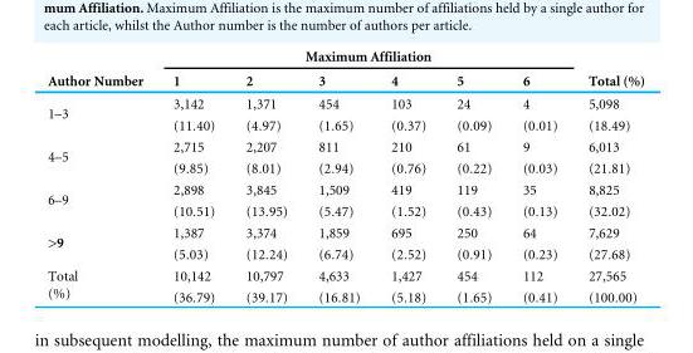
<table><thead><tr><td rowspan="2">Author Number</td><td colspan="6">Maximum Affiliation</td><td rowspan="2">Total (%)</td></tr><tr><td>1</td><td>2</td><td>3</td><td>4</td><td>5</td><td>6</td></tr></thead><tbody><tr><td rowspan="2">1–3</td><td>3,142</td><td>1,371</td><td>454</td><td>103</td><td>24</td><td>4</td><td>5,098</td></tr><tr><td>(11.40)</td><td>(4.97)</td><td>(1.65)</td><td>(0.37)</td><td>(0.09)</td><td>(0.01)</td><td>(18.49)</td></tr><tr><td rowspan="2">4–5</td><td>2,715</td><td>2,207</td><td>811</td><td>210</td><td>61</td><td>9</td><td>6,013</td></tr><tr><td>(9.85)</td><td>(8.01)</td><td>(2.94)</td><td>(0.76)</td><td>(0.22)</td><td>(0.03)</td><td>(21.81)</td></tr><tr><td rowspan="2">6–9</td><td>2,898</td><td>3,845</td><td>1,509</td><td>419</td><td>119</td><td>35</td><td>8,825</td></tr><tr><td>(10.51)</td><td>(13.95)</td><td>(5.47)</td><td>(1.52)</td><td>(0.43)</td><td>(0.13)</td><td>(32.02)</td></tr><tr><td rowspan="2">&gt;9</td><td>1,387</td><td>3,374</td><td>1,859</td><td>695</td><td>250</td><td>64</td><td>7,629</td></tr><tr><td>(5.03)</td><td>(12.24)</td><td>(6.74)</td><td>(2.52)</td><td>(0.91)</td><td>(0.23)</td><td>(27.68)</td></tr><tr><td rowspan="2">Total (%)</td><td>10,142</td><td>10,797</td><td>4,633</td><td>1,427</td><td>454</td><td>112</td><td>27,565</td></tr><tr><td>(36.79)</td><td>(39.17)</td><td>(16.81)</td><td>(5.18)</td><td>(1.65)</td><td>(0.41)</td><td>(100.00)</td></tr></tbody></table>